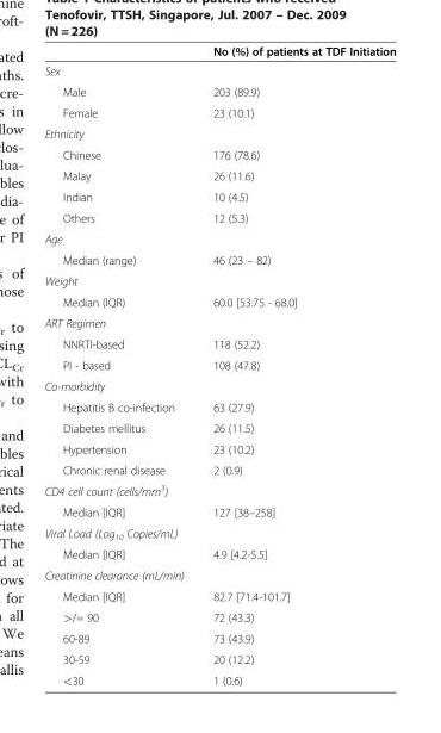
<table><thead><tr><td></td><td>No (%) of patients at TDF Initiation</td></tr></thead><tbody><tr><td colspan="2">Sex</td></tr><tr><td>Male</td><td>203 (89.9)</td></tr><tr><td>Female</td><td>23 (10.1)</td></tr><tr><td colspan="2">Ethnicity</td></tr><tr><td>Chinese</td><td>176 (78.6)</td></tr><tr><td>Malay</td><td>26 (11.6)</td></tr><tr><td>Indian</td><td>10 (4.5)</td></tr><tr><td>Others</td><td>12 (5.3)</td></tr><tr><td colspan="2">Age</td></tr><tr><td>Median (range)</td><td>46 (23 – 82)</td></tr><tr><td colspan="2">Weight</td></tr><tr><td>Median (IQR)</td><td>60.0 [53.75 - 68.0]</td></tr><tr><td colspan="2">ART Regimen</td></tr><tr><td>NNRTI-based</td><td>118 (52.2)</td></tr><tr><td>PI - based</td><td>108 (47.8)</td></tr><tr><td colspan="2">Co-morbidity</td></tr><tr><td>Hepatitis B co-infection</td><td>63 (27.9)</td></tr><tr><td>Diabetes mellitus</td><td>26 (11.5)</td></tr><tr><td>Hypertension</td><td>23 (10.2)</td></tr><tr><td>Chronic renal disease</td><td>2 (0.9)</td></tr><tr><td colspan="2">CD4 cell count (cells/mm<sup>3</sup>)</td></tr><tr><td>Median [IQR]</td><td>127 [38–258]</td></tr><tr><td colspan="2">Viral Load (Log<sub>10</sub> Copies/mL)</td></tr><tr><td>Median [IQR]</td><td>4.9 [4.2-5.5]</td></tr><tr><td colspan="2">Creatinine clearance (mL/min)</td></tr><tr><td>Median [IQR]</td><td>82.7 [71.4-101.7]</td></tr><tr><td>&gt;/= 90</td><td>72 (43.3)</td></tr><tr><td>60-89</td><td>73 (43.9)</td></tr><tr><td>30-59</td><td>20 (12.2)</td></tr><tr><td>&lt;30</td><td>1 (0.6)</td></tr></tbody></table>